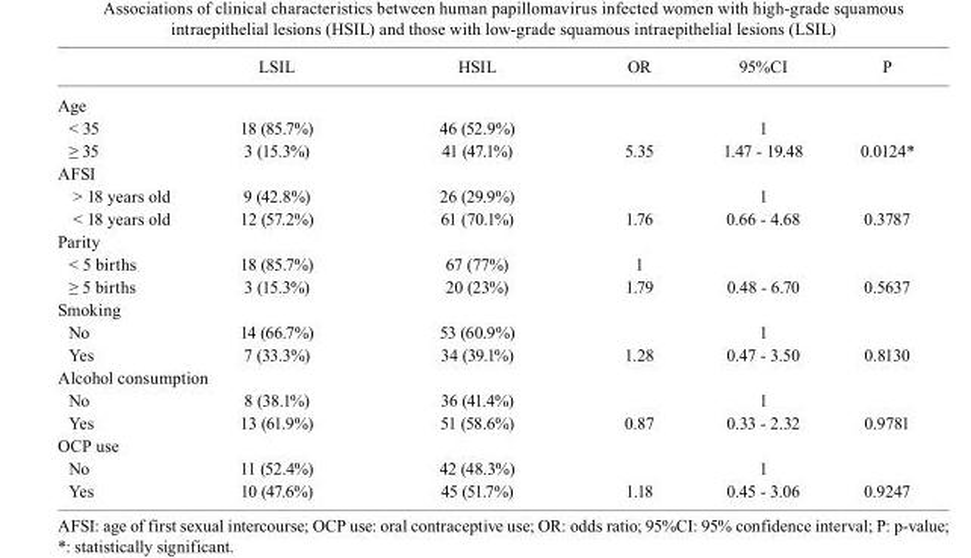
<table><thead><tr><td></td><td>LSIL</td><td>HSIL</td><td>OR</td><td>95%CI</td><td>P</td></tr></thead><tbody><tr><td colspan="6">Age</td></tr><tr><td>&lt; 35</td><td>18 (85.7%)</td><td>46 (52.9%)</td><td colspan="3">1</td></tr><tr><td>≥ 35</td><td>3 (15.3%)</td><td>41 (47.1%)</td><td>5.35</td><td>1.47 - 19.48</td><td>0.0124*</td></tr><tr><td colspan="6">AFSI</td></tr><tr><td>&gt; 18 years old</td><td>9 (42.8%)</td><td>26 (29.9%)</td><td colspan="3">1</td></tr><tr><td>&lt; 18 years old</td><td>12 (57.2%)</td><td>61 (70.1%)</td><td>1.76</td><td>0.66 - 4.68</td><td>0.3787</td></tr><tr><td colspan="6">Parity</td></tr><tr><td>&lt; 5 births</td><td>18 (85.7%)</td><td>67 (77%)</td><td>1</td><td></td><td></td></tr><tr><td>≥ 5 births</td><td>3 (15.3%)</td><td>20 (23%)</td><td>1.79</td><td>0.48 - 6.70</td><td>0.5637</td></tr><tr><td colspan="6">Smoking</td></tr><tr><td>No</td><td>14 (66.7%)</td><td>53 (60.9%)</td><td colspan="3">1</td></tr><tr><td>Yes</td><td>7 (33.3%)</td><td>34 (39.1%)</td><td>1.28</td><td>0.47 - 3.50</td><td>0.8130</td></tr><tr><td colspan="6">Alcohol consumption</td></tr><tr><td>No</td><td>8 (38.1%)</td><td>36 (41.4%)</td><td colspan="3">1</td></tr><tr><td>Yes</td><td>13 (61.9%)</td><td>51 (58.6%)</td><td>0.87</td><td>0.33 - 2.32</td><td>0.9781</td></tr><tr><td colspan="6">OCP use</td></tr><tr><td>No</td><td>11 (52.4%)</td><td>42 (48.3%)</td><td colspan="3">1</td></tr><tr><td>Yes</td><td>10 (47.6%)</td><td>45 (51.7%)</td><td>1.18</td><td>0.45 - 3.06</td><td>0.9247</td></tr></tbody></table>